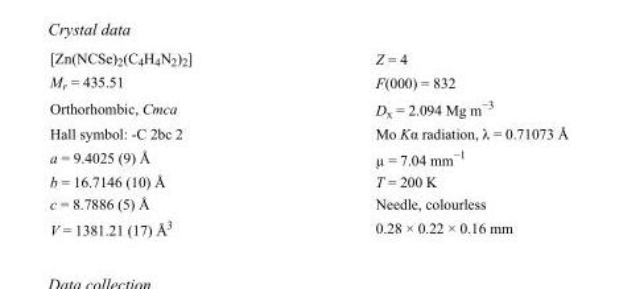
<table><tbody><tr><td>[Zn(NCSe)<sub>2</sub>(C<sub>4</sub>H<sub>4</sub>N<sub>2</sub>)<sub>2</sub>]</td><td>Z = 4</td></tr><tr><td>M<sub>r</sub> = 435.51</td><td>F(000) = 832</td></tr><tr><td>Orthorhombic, Cmca</td><td>D<sub>x</sub> = 2.094 Mg m<sup>−3</sup></td></tr><tr><td>Hall symbol: -C 2bc 2</td><td>Mo Kα radiation, λ = 0.71073 Å</td></tr><tr><td>a = 9.4025 (9) Å</td><td>µ = 7.04 mm<sup>−1</sup></td></tr><tr><td>b = 16.7146 (10) Å</td><td>T = 200 K</td></tr><tr><td>c = 8.7886 (5) Å</td><td>Needle, colourless</td></tr><tr><td>V = 1381.21 (17) Å<sup>3</sup></td><td>0.28 × 0.22 × 0.16 mm</td></tr></tbody></table>